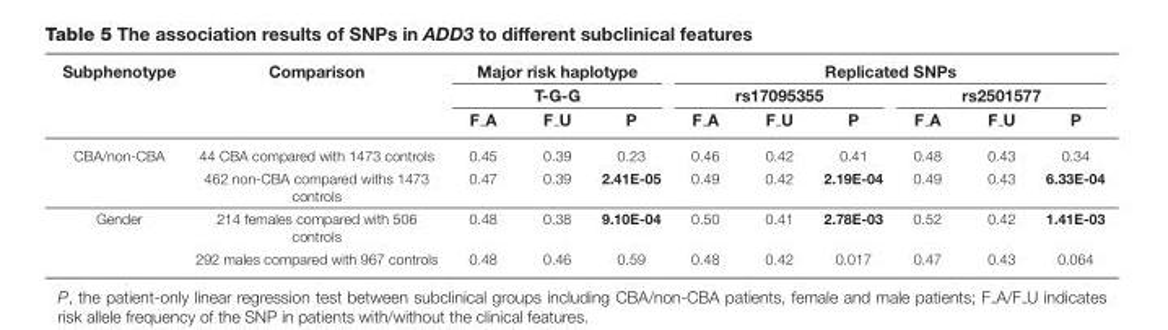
<table><thead><tr><td rowspan="3">Subphenotype</td><td rowspan="3">Comparison</td><td rowspan="2" colspan="3">Major risk haplotype T-G-G</td><td colspan="6">Replicated SNPs</td></tr><tr><td colspan="3">rs17095355</td><td colspan="3">rs2501577</td></tr><tr><td>F A</td><td>F U</td><td>P</td><td>F A</td><td>F U</td><td>P</td><td>F A</td><td>F U</td><td>P</td></tr></thead><tbody><tr><td rowspan="2">CBA/non-CBA</td><td>44 CBA compared with 1473 controls</td><td>0.45</td><td>0.39</td><td>0.23</td><td>0.46</td><td>0.42</td><td>0.41</td><td>0.48</td><td>0.43</td><td>0.34</td></tr><tr><td>462 non-CBA compared withs 1473 controls</td><td>0.47</td><td>0.39</td><td>2.41E-05</td><td>0.49</td><td>0.42</td><td>2.19E-04</td><td>0.49</td><td>0.43</td><td>6.33E-04</td></tr><tr><td rowspan="2">Gender</td><td>214 females compared with 506 controls</td><td>0.48</td><td>0.38</td><td>9.10E-04</td><td>0.50</td><td>0.41</td><td>2.78E-03</td><td>0.52</td><td>0.42</td><td>1.41E-03</td></tr><tr><td>292 males compared with 967 controls</td><td>0.48</td><td>0.46</td><td>0.59</td><td>0.48</td><td>0.42</td><td>0.017</td><td>0.47</td><td>0.43</td><td>0.064</td></tr></tbody></table>